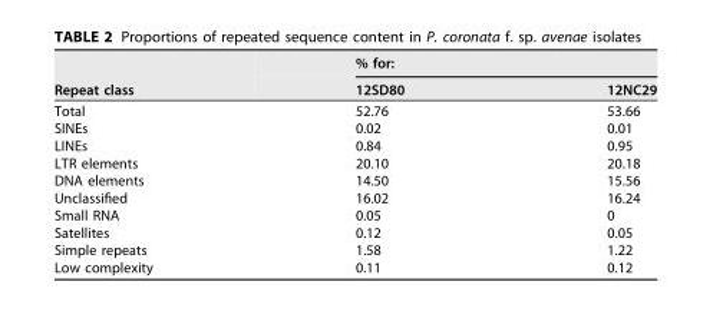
<table><thead><tr><td rowspan="2">Repeat class</td><td colspan="2">% for:</td></tr><tr><td>12SD80</td><td>12NC29</td></tr></thead><tbody><tr><td>Total</td><td>52.76</td><td>53.66</td></tr><tr><td>SINEs</td><td>0.02</td><td>0.01</td></tr><tr><td>LINEs</td><td>0.84</td><td>0.95</td></tr><tr><td>LTR elements</td><td>20.10</td><td>20.18</td></tr><tr><td>DNA elements</td><td>14.50</td><td>15.56</td></tr><tr><td>Unclassified</td><td>16.02</td><td>16.24</td></tr><tr><td>Small RNA</td><td>0.05</td><td>0</td></tr><tr><td>Satellites</td><td>0.12</td><td>0.05</td></tr><tr><td>Simple repeats</td><td>1.58</td><td>1.22</td></tr><tr><td>Low complexity</td><td>0.11</td><td>0.12</td></tr></tbody></table>